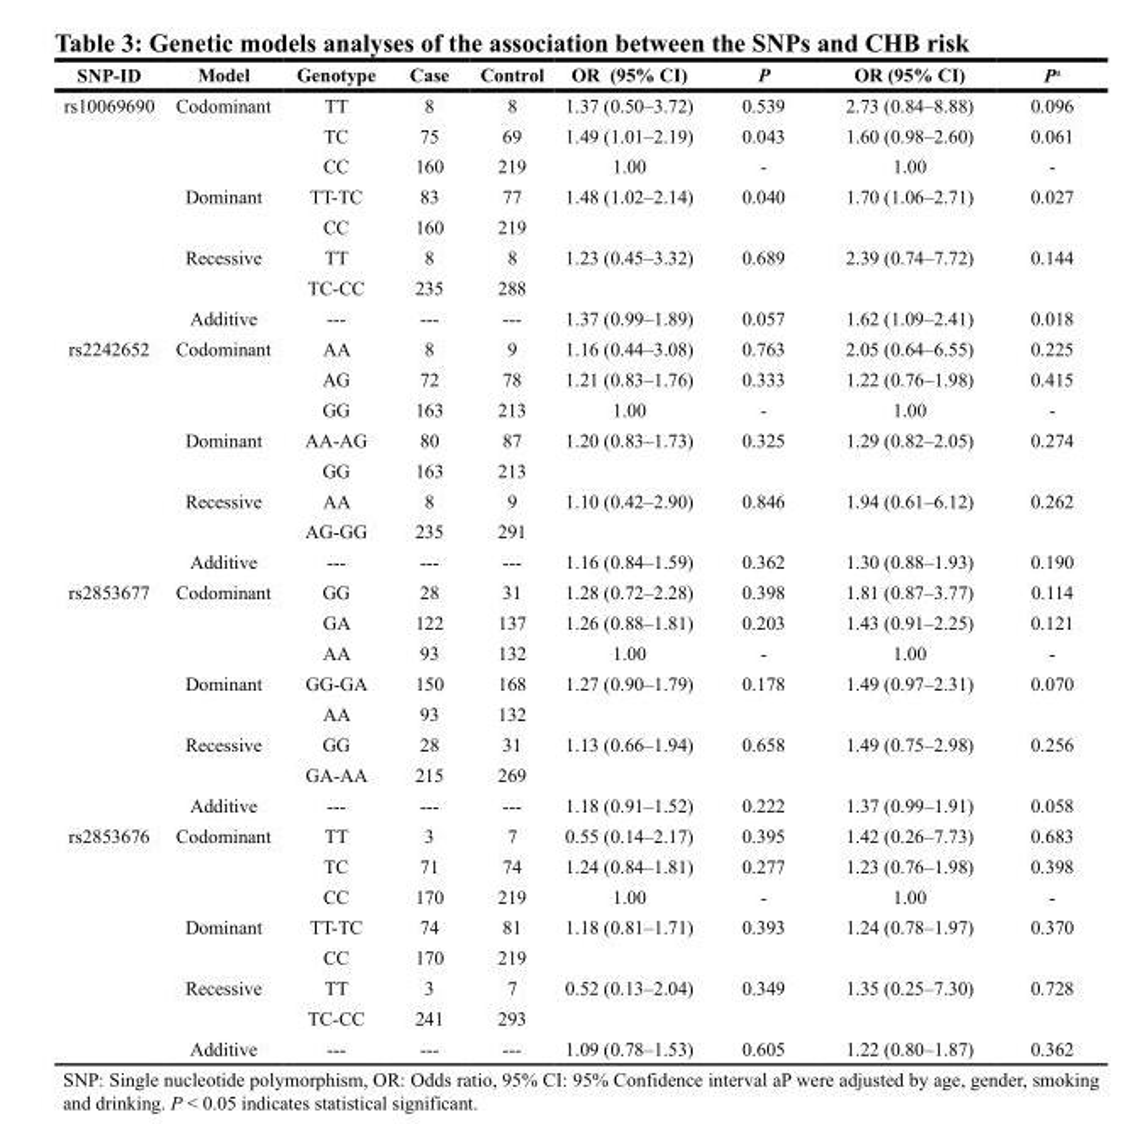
<table><thead><tr><td>SNP-ID</td><td>Model</td><td>Genotype</td><td>Case</td><td>Control</td><td>OR (95% CI)</td><td>P</td><td>OR (95% CI)</td><td>P<sup>a</sup></td></tr></thead><tbody><tr><td rowspan="8">rs10069690</td><td>Codominant</td><td>TT</td><td>8</td><td>8</td><td>1.37 (0.50–3.72)</td><td>0.539</td><td>2.73 (0.84–8.88)</td><td>0.096</td></tr><tr><td></td><td>TC</td><td>75</td><td>69</td><td>1.49 (1.01–2.19)</td><td>0.043</td><td>1.60 (0.98–2.60)</td><td>0.061</td></tr><tr><td></td><td>CC</td><td>160</td><td>219</td><td>1.00</td><td>-</td><td>1.00</td><td>-</td></tr><tr><td>Dominant</td><td>TT-TC</td><td>83</td><td>77</td><td>1.48 (1.02–2.14)</td><td>0.040</td><td>1.70 (1.06–2.71)</td><td>0.027</td></tr><tr><td></td><td>CC</td><td>160</td><td>219</td><td></td><td></td><td></td><td></td></tr><tr><td>Recessive</td><td>TT</td><td>8</td><td>8</td><td>1.23 (0.45–3.32)</td><td>0.689</td><td>2.39 (0.74–7.72)</td><td>0.144</td></tr><tr><td></td><td>TC-CC</td><td>235</td><td>288</td><td></td><td></td><td></td><td></td></tr><tr><td>Additive</td><td>---</td><td>---</td><td>---</td><td>1.37 (0.99–1.89)</td><td>0.057</td><td>1.62 (1.09–2.41)</td><td>0.018</td></tr><tr><td rowspan="8">rs2242652</td><td>Codominant</td><td>AA</td><td>8</td><td>9</td><td>1.16 (0.44–3.08)</td><td>0.763</td><td>2.05 (0.64–6.55)</td><td>0.225</td></tr><tr><td></td><td>AG</td><td>72</td><td>78</td><td>1.21 (0.83–1.76)</td><td>0.333</td><td>1.22 (0.76–1.98)</td><td>0.415</td></tr><tr><td></td><td>GG</td><td>163</td><td>213</td><td>1.00</td><td>-</td><td>1.00</td><td>-</td></tr><tr><td>Dominant</td><td>AA-AG</td><td>80</td><td>87</td><td>1.20 (0.83–1.73)</td><td>0.325</td><td>1.29 (0.82–2.05)</td><td>0.274</td></tr><tr><td></td><td>GG</td><td>163</td><td>213</td><td></td><td></td><td></td><td></td></tr><tr><td>Recessive</td><td>AA</td><td>8</td><td>9</td><td>1.10 (0.42–2.90)</td><td>0.846</td><td>1.94 (0.61–6.12)</td><td>0.262</td></tr><tr><td></td><td>AG-GG</td><td>235</td><td>291</td><td></td><td></td><td></td><td></td></tr><tr><td>Additive</td><td>---</td><td>---</td><td>---</td><td>1.16 (0.84–1.59)</td><td>0.362</td><td>1.30 (0.88–1.93)</td><td>0.190</td></tr><tr><td rowspan="8">rs2853677</td><td>Codominant</td><td>GG</td><td>28</td><td>31</td><td>1.28 (0.72–2.28)</td><td>0.398</td><td>1.81 (0.87–3.77)</td><td>0.114</td></tr><tr><td></td><td>GA</td><td>122</td><td>137</td><td>1.26 (0.88–1.81)</td><td>0.203</td><td>1.43 (0.91–2.25)</td><td>0.121</td></tr><tr><td></td><td>AA</td><td>93</td><td>132</td><td>1.00</td><td>-</td><td>1.00</td><td>-</td></tr><tr><td>Dominant</td><td>GG-GA</td><td>150</td><td>168</td><td>1.27 (0.90–1.79)</td><td>0.178</td><td>1.49 (0.97–2.31)</td><td>0.070</td></tr><tr><td></td><td>AA</td><td>93</td><td>132</td><td></td><td></td><td></td><td></td></tr><tr><td>Recessive</td><td>GG</td><td>28</td><td>31</td><td>1.13 (0.66–1.94)</td><td>0.658</td><td>1.49 (0.75–2.98)</td><td>0.256</td></tr><tr><td></td><td>GA-AA</td><td>215</td><td>269</td><td></td><td></td><td></td><td></td></tr><tr><td>Additive</td><td>---</td><td>---</td><td>---</td><td>1.18 (0.91–1.52)</td><td>0.222</td><td>1.37 (0.99–1.91)</td><td>0.058</td></tr><tr><td rowspan="8">rs2853676</td><td>Codominant</td><td>TT</td><td>3</td><td>7</td><td>0.55 (0.14–2.17)</td><td>0.395</td><td>1.42 (0.26–7.73)</td><td>0.683</td></tr><tr><td></td><td>TC</td><td>71</td><td>74</td><td>1.24 (0.84–1.81)</td><td>0.277</td><td>1.23 (0.76–1.98)</td><td>0.398</td></tr><tr><td></td><td>CC</td><td>170</td><td>219</td><td>1.00</td><td>-</td><td>1.00</td><td>-</td></tr><tr><td>Dominant</td><td>TT-TC</td><td>74</td><td>81</td><td>1.18 (0.81–1.71)</td><td>0.393</td><td>1.24 (0.78–1.97)</td><td>0.370</td></tr><tr><td></td><td>CC</td><td>170</td><td>219</td><td></td><td></td><td></td><td></td></tr><tr><td>Recessive</td><td>TT</td><td>3</td><td>7</td><td>0.52 (0.13–2.04)</td><td>0.349</td><td>1.35 (0.25–7.30)</td><td>0.728</td></tr><tr><td></td><td>TC-CC</td><td>241</td><td>293</td><td></td><td></td><td></td><td></td></tr><tr><td>Additive</td><td>---</td><td>---</td><td>---</td><td>1.09 (0.78–1.53)</td><td>0.605</td><td>1.22 (0.80–1.87)</td><td>0.362</td></tr></tbody></table>